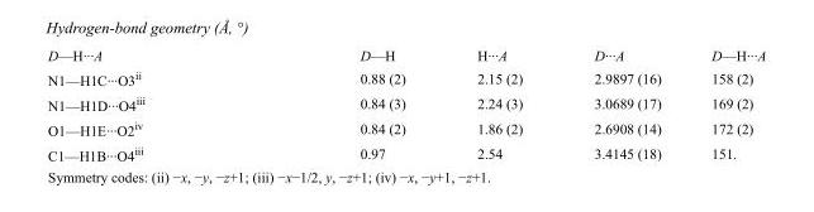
<table><tbody><tr><td>D—H···A</td><td>D—H</td><td>H···A</td><td>D···A</td><td>D—H···A</td></tr><tr><td>N1—H1C···O3<sup>ii</sup></td><td>0.88 (2)</td><td>2.15 (2)</td><td>2.9897 (16)</td><td>158 (2)</td></tr><tr><td>N1—H1D···O4<sup>iii</sup></td><td>0.84 (3)</td><td>2.24 (3)</td><td>3.0689 (17)</td><td>169 (2)</td></tr><tr><td>O1—H1E···O2<sup>iv</sup></td><td>0.84 (2)</td><td>1.86 (2)</td><td>2.6908 (14)</td><td>172 (2)</td></tr><tr><td>C1—H1B···O4<sup>iii</sup></td><td>0.97</td><td>2.54</td><td>3.4145 (18)</td><td>151.</td></tr></tbody></table>